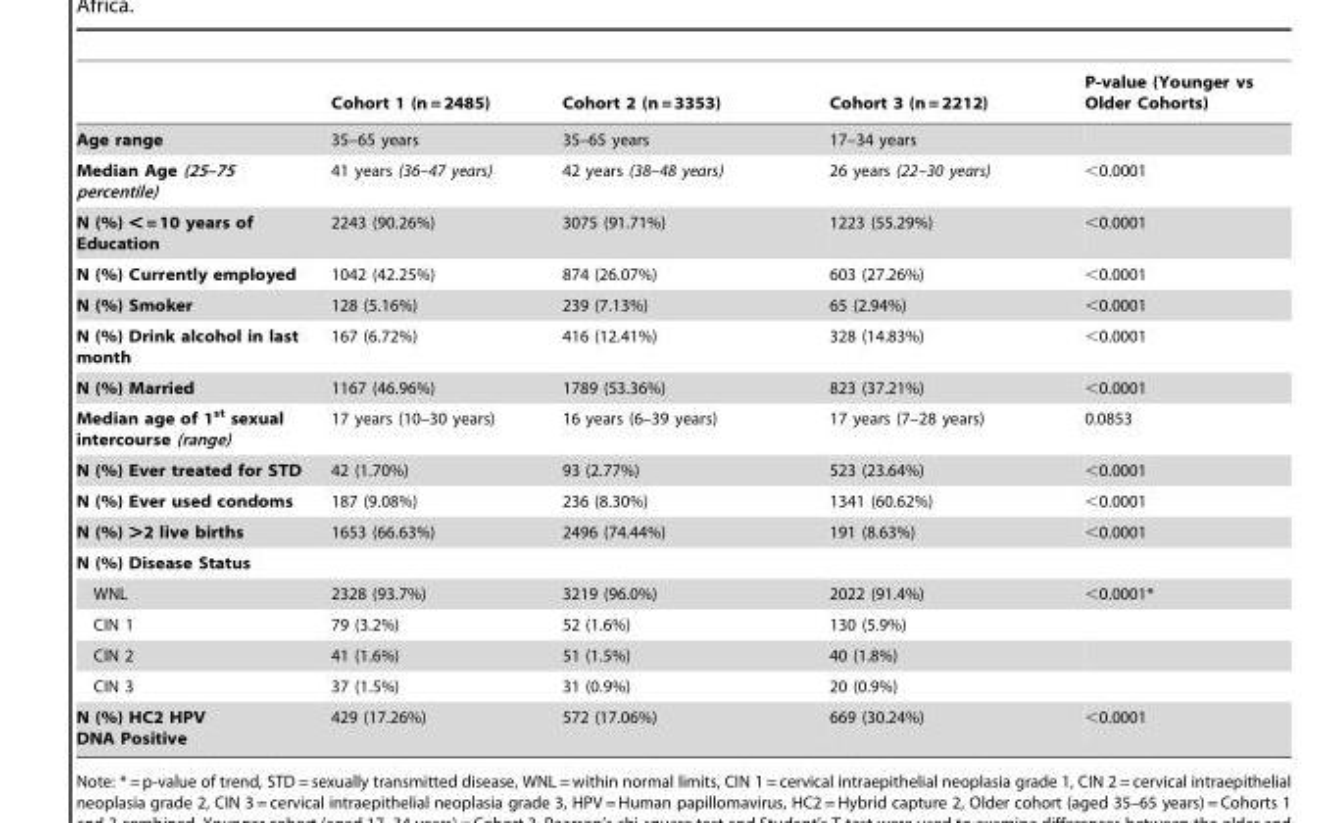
<table><thead><tr><td></td><td>Cohort 1 (n = 2485)</td><td>Cohort 2 (n = 3353)</td><td>Cohort 3 (n = 2212)</td><td>P-value (Younger vs Older Cohorts)</td></tr></thead><tbody><tr><td>Age range</td><td>35–65 years</td><td>35–65 years</td><td>17–34 years</td><td></td></tr><tr><td>Median Age (25–75 percentile)</td><td>41 years (36–47 years)</td><td>42 years (38–48 years)</td><td>26 years (22–30 years)</td><td>&lt;0.0001</td></tr><tr><td>N (%) &lt; = 10 years of Education</td><td>2243 (90.26%)</td><td>3075 (91.71%)</td><td>1223 (55.29%)</td><td>&lt;0.0001</td></tr><tr><td>N (%) Currently employed</td><td>1042 (42.25%)</td><td>874 (26.07%)</td><td>603 (27.26%)</td><td>&lt;0.0001</td></tr><tr><td>N (%) Smoker</td><td>128 (5.16%)</td><td>239 (7.13%)</td><td>65 (2.94%)</td><td>&lt;0.0001</td></tr><tr><td>N (%) Drink alcohol in last month</td><td>167 (6.72%)</td><td>416 (12.41%)</td><td>328 (14.83%)</td><td>&lt;0.0001</td></tr><tr><td>N (%) Married</td><td>1167 (46.96%)</td><td>1789 (53.36%)</td><td>823 (37.21%)</td><td>&lt;0.0001</td></tr><tr><td>Median age of 1<sup>st</sup> sexual intercourse (range)</td><td>17 years (10–30 years)</td><td>16 years (6–39 years)</td><td>17 years (7–28 years)</td><td>0.0853</td></tr><tr><td>N (%) Ever treated for STD</td><td>42 (1.70%)</td><td>93 (2.77%)</td><td>523 (23.64%)</td><td>&lt;0.0001</td></tr><tr><td>N (%) Ever used condoms</td><td>187 (9.08%)</td><td>236 (8.30%)</td><td>1341 (60.62%)</td><td>&lt;0.0001</td></tr><tr><td>N (%) &gt;2 live births</td><td>1653 (66.63%)</td><td>2496 (74.44%)</td><td>191 (8.63%)</td><td>&lt;0.0001</td></tr><tr><td colspan="5">N (%) Disease Status</td></tr><tr><td>WNL</td><td>2328 (93.7%)</td><td>3219 (96.0%)</td><td>2022 (91.4%)</td><td>&lt;0.0001*</td></tr><tr><td>CIN 1</td><td>79 (3.2%)</td><td>52 (1.6%)</td><td>130 (5.9%)</td><td></td></tr><tr><td>CIN 2</td><td>41 (1.6%)</td><td>51 (1.5%)</td><td>40 (1.8%)</td><td></td></tr><tr><td>CIN 3</td><td>37 (1.5%)</td><td>31 (0.9%)</td><td>20 (0.9%)</td><td></td></tr><tr><td>N (%) HC2 HPV DNA Positive</td><td>429 (17.26%)</td><td>572 (17.06%)</td><td>669 (30.24%)</td><td>&lt;0.0001</td></tr></tbody></table>